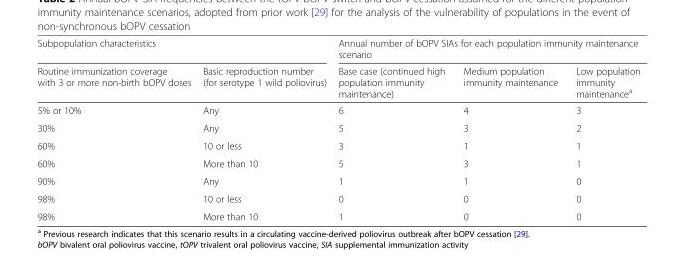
<table><thead><tr><td colspan="2">Subpopulation characteristics</td><td colspan="3">Annual number of bOPV SIAs for each population immunity maintenance scenario</td></tr><tr><td>Routine immunization coverage with 3 or more non-birth bOPV doses</td><td>Basic reproduction number (for serotype 1 wild poliovirus)</td><td>Base case (continued high population immunity maintenance)</td><td>Medium population immunity maintenance</td><td>Low population immunity maintenance<sup>a</sup></td></tr></thead><tbody><tr><td>5% or 10%</td><td>Any</td><td>6</td><td>4</td><td>3</td></tr><tr><td>30%</td><td>Any</td><td>5</td><td>3</td><td>2</td></tr><tr><td>60%</td><td>10 or less</td><td>3</td><td>1</td><td>1</td></tr><tr><td>60%</td><td>More than 10</td><td>5</td><td>3</td><td>1</td></tr><tr><td>90%</td><td>Any</td><td>1</td><td>1</td><td>0</td></tr><tr><td>98%</td><td>10 or less</td><td>0</td><td>0</td><td>0</td></tr><tr><td>98%</td><td>More than 10</td><td>1</td><td>0</td><td>0</td></tr></tbody></table>